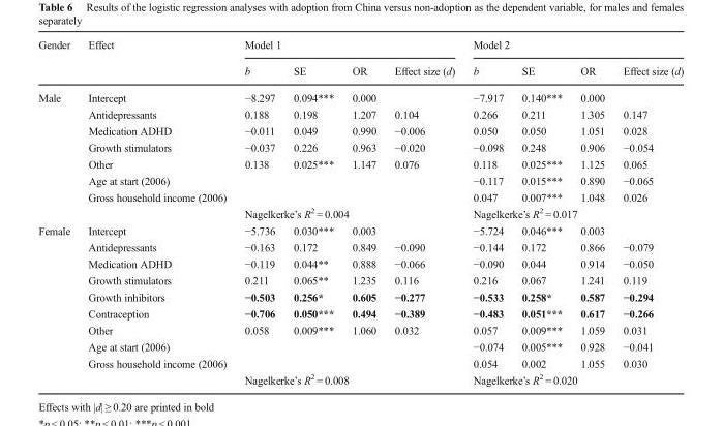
<table><thead><tr><td rowspan="2">Gender</td><td rowspan="2">Effect</td><td colspan="4">Model 1</td><td colspan="4">Model 2</td></tr><tr><td>b</td><td>SE</td><td>OR</td><td>Effect size (d)</td><td>b</td><td>SE</td><td>OR</td><td>Effect size (d)</td></tr></thead><tbody><tr><td rowspan="8">Male</td><td>Intercept</td><td>−8.297</td><td>0.094***</td><td>0.000</td><td></td><td>−7.917</td><td>0.140***</td><td>0.000</td><td></td></tr><tr><td>Antidepressants</td><td>0.188</td><td>0.198</td><td>1.207</td><td>0.104</td><td>0.266</td><td>0.211</td><td>1.305</td><td>0.147</td></tr><tr><td>Medication ADHD</td><td>−0.011</td><td>0.049</td><td>0.990</td><td>−0.006</td><td>0.050</td><td>0.050</td><td>1.051</td><td>0.028</td></tr><tr><td>Growth stimulators</td><td>−0.037</td><td>0.226</td><td>0.963</td><td>−0.020</td><td>−0.098</td><td>0.248</td><td>0.906</td><td>−0.054</td></tr><tr><td>Other</td><td>0.138</td><td>0.025***</td><td>1.147</td><td>0.076</td><td>0.118</td><td>0.025***</td><td>1.125</td><td>0.065</td></tr><tr><td>Age at start (2006)</td><td></td><td></td><td></td><td></td><td>−0.117</td><td>0.015***</td><td>0.890</td><td>−0.065</td></tr><tr><td>Gross household income (2006)</td><td></td><td></td><td></td><td></td><td>0.047</td><td>0.007***</td><td>1.048</td><td>0.026</td></tr><tr><td></td><td colspan="4">Nagelkerke’s R<sup>2</sup> = 0.004</td><td colspan="4">Nagelkerke’s R<sup>2</sup> = 0.017</td></tr><tr><td rowspan="10">Female</td><td>Intercept</td><td>−5.736</td><td>0.030***</td><td>0.003</td><td></td><td>−5.724</td><td>0.046***</td><td>0.003</td><td></td></tr><tr><td>Antidepressants</td><td>−0.163</td><td>0.172</td><td>0.849</td><td>−0.090</td><td>−0.144</td><td>0.172</td><td>0.866</td><td>−0.079</td></tr><tr><td>Medication ADHD</td><td>−0.119</td><td>0.044**</td><td>0.888</td><td>−0.066</td><td>−0.090</td><td>0.044</td><td>0.914</td><td>−0.050</td></tr><tr><td>Growth stimulators</td><td>0.211</td><td>0.065**</td><td>1.235</td><td>0.116</td><td>0.216</td><td>0.067</td><td>1.241</td><td>0.119</td></tr><tr><td>Growth inhibitors</td><td>−0.503</td><td>0.256*</td><td>0.605</td><td>−0.277</td><td>−0.533</td><td>0.258*</td><td>0.587</td><td>−0.294</td></tr><tr><td>Contraception</td><td>−0.706</td><td>0.050***</td><td>0.494</td><td>−0.389</td><td>−0.483</td><td>0.051***</td><td>0.617</td><td>−0.266</td></tr><tr><td>Other</td><td>0.058</td><td>0.009***</td><td>1.060</td><td>0.032</td><td>0.057</td><td>0.009***</td><td>1.059</td><td>0.031</td></tr><tr><td>Age at start (2006)</td><td></td><td></td><td></td><td></td><td>−0.074</td><td>0.005***</td><td>0.928</td><td>−0.041</td></tr><tr><td>Gross household income (2006)</td><td></td><td></td><td></td><td></td><td>0.054</td><td>0.002</td><td>1.055</td><td>0.030</td></tr><tr><td></td><td colspan="4">Nagelkerke’s R<sup>2</sup> = 0.008</td><td colspan="4">Nagelkerke’s R<sup>2</sup> = 0.020</td></tr></tbody></table>